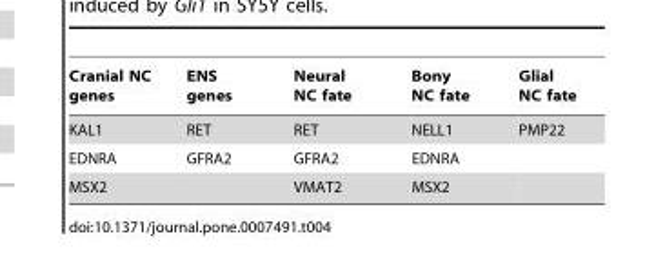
<table><thead><tr><td>Cranial NC genes</td><td>ENS genes</td><td>Neural NC fate</td><td>Bony NC fate</td><td>Glial NC fate</td></tr></thead><tbody><tr><td>KAL1</td><td>RET</td><td>RET</td><td>NELL1</td><td>PMP22</td></tr><tr><td>EDNRA</td><td>GFRA2</td><td>GFRA2</td><td>EDNRA</td><td></td></tr><tr><td>MSX2</td><td></td><td>VMAT2</td><td>MSX2</td><td></td></tr></tbody></table>